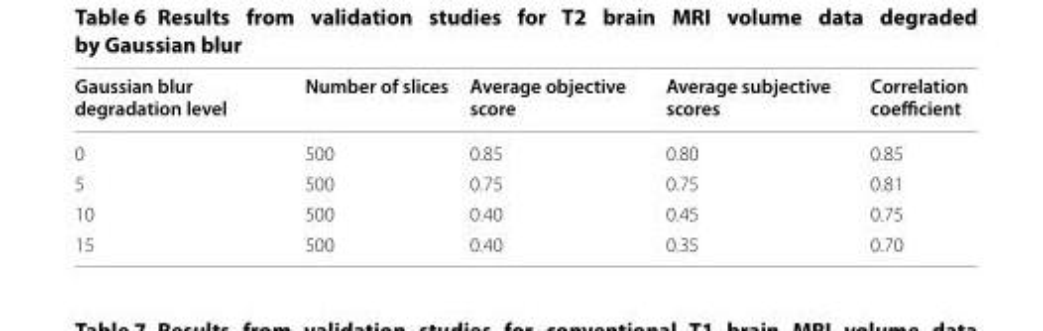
<table><thead><tr><td>Gaussian blur degradation level</td><td>Number of slices</td><td>Average objective score</td><td>Average subjective scores</td><td>Correlation coefficient</td></tr></thead><tbody><tr><td>0</td><td>500</td><td>0.85</td><td>0.80</td><td>0.85</td></tr><tr><td>5</td><td>500</td><td>0.75</td><td>0.75</td><td>0.81</td></tr><tr><td>10</td><td>500</td><td>0.40</td><td>0.45</td><td>0.75</td></tr><tr><td>15</td><td>500</td><td>0.40</td><td>0.35</td><td>0.70</td></tr></tbody></table>